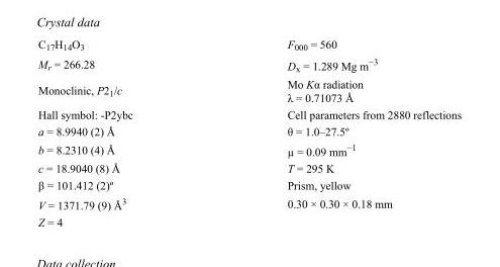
<table><tbody><tr><td>C<sub>17</sub>H<sub>14</sub>O<sub>3</sub></td><td>F000 = 560</td></tr><tr><td>M<sub>r</sub> = 266.28</td><td>D<sub>x</sub> = 1.289 Mg m<sup>−3</sup></td></tr><tr><td>Monoclinic, P2<sub>1</sub>/c</td><td>Mo Kα radiation λ = 0.71073 Å</td></tr><tr><td>Hall symbol: -P2ybc</td><td>Cell parameters from 2880 reflections</td></tr><tr><td>a = 8.9940 (2) Å</td><td>θ = 1.0–27.5º</td></tr><tr><td>b = 8.2310 (4) Å</td><td>µ = 0.09 mm<sup>−1</sup></td></tr><tr><td>c = 18.9040 (8) Å</td><td>T = 295 K</td></tr><tr><td>β = 101.412 (2)º</td><td>Prism, yellow</td></tr><tr><td>V = 1371.79 (9) Å<sup>3</sup></td><td>0.30 × 0.30 × 0.18 mm</td></tr><tr><td>Z = 4</td><td></td></tr></tbody></table>